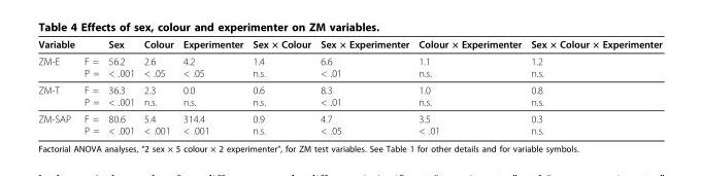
<table><thead><tr><td>Variable</td><td></td><td>Sex</td><td>Colour</td><td>Experimenter</td><td>Sex × Colour</td><td>Sex × Experimenter</td><td>Colour × Experimenter</td><td>Sex × Colour × Experimenter</td></tr></thead><tbody><tr><td>ZM-E</td><td>F = P =</td><td>56.2 &lt; .001</td><td>2.6 &lt; .05</td><td>4.2 &lt; .05</td><td>1.4 n.s.</td><td>6.6 &lt; .01</td><td>1.1 n.s.</td><td>1.2 n.s.</td></tr><tr><td>ZM-T</td><td>F = P =</td><td>36.3 &lt; .001</td><td>2.3 n.s.</td><td>0.0 n.s.</td><td>0.6 n.s.</td><td>8.3 &lt; .01</td><td>1.0 n.s.</td><td>0.8 n.s.</td></tr><tr><td>ZM-SAP</td><td>F = P =</td><td>80.6 &lt; .001</td><td>5.4 &lt; .001</td><td>314.4 &lt; .001</td><td>0.9 n.s.</td><td>4.7 &lt; .05</td><td>3.5 &lt; .01</td><td>0.3 n.s.</td></tr></tbody></table>